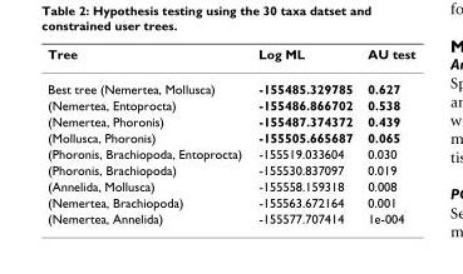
<table><thead><tr><td>Tree</td><td>Log ML</td><td>AU test</td></tr></thead><tbody><tr><td>Best tree (Nemertea, Mollusca)</td><td>-155485.329785</td><td>0.627</td></tr><tr><td>(Nemertea, Entoprocta)</td><td>-155486.866702</td><td>0.538</td></tr><tr><td>(Nemertea, Phoronis)</td><td>-155487.374372</td><td>0.439</td></tr><tr><td>(Mollusca, Phoronis)</td><td>-155505.665687</td><td>0.065</td></tr><tr><td>(Phoronis, Brachiopoda, Entoprocta)</td><td>-155519.033604</td><td>0.030</td></tr><tr><td>(Phoronis, Brachiopoda)</td><td>-155530.837097</td><td>0.019</td></tr><tr><td>(Annelida, Mollusca)</td><td>-155558.159318</td><td>0.008</td></tr><tr><td>(Nemertea, Brachiopoda)</td><td>-155563.672164</td><td>0.001</td></tr><tr><td>(Nemertea, Annelida)</td><td>-155577.707414</td><td>1e-004</td></tr></tbody></table>